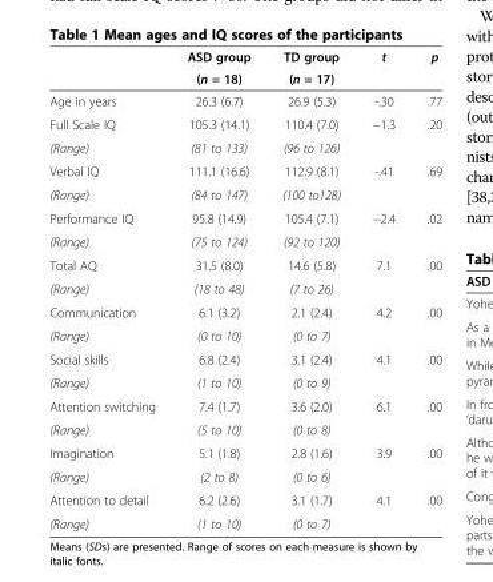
<table><thead><tr><td rowspan="2"></td><td rowspan="2">ASD group (n = 18)</td><td rowspan="2">TD group (n = 17)</td><td rowspan="2">t</td><td rowspan="2">p</td></tr><tr></tr></thead><tbody><tr><td>Age in years</td><td>26.3 (6.7)</td><td>26.9 (5.3)</td><td>-.30</td><td>.77</td></tr><tr><td>Full Scale IQ</td><td>105.3 (14.1)</td><td>110.4 (7.0)</td><td rowspan="2">−1.3</td><td rowspan="2">.20</td></tr><tr><td>(Range)</td><td>(81 to 133)</td><td>(96 to 126)</td></tr><tr><td>Verbal IQ</td><td>111.1 (16.6)</td><td>112.9 (8.1)</td><td rowspan="2">-.41</td><td rowspan="2">.69</td></tr><tr><td>(Range)</td><td>(84 to 147)</td><td>(100 to128)</td></tr><tr><td>Performance IQ</td><td>95.8 (14.9)</td><td>105.4 (7.1)</td><td rowspan="2">−2.4</td><td rowspan="2">.02</td></tr><tr><td>(Range)</td><td>(75 to 124)</td><td>(92 to 120)</td></tr><tr><td>Total AQ</td><td>31.5 (8.0)</td><td>14.6 (5.8)</td><td rowspan="2">7.1</td><td rowspan="2">.00</td></tr><tr><td>(Range)</td><td>(18 to 48)</td><td>(7 to 26)</td></tr><tr><td>Communication</td><td>6.1 (3.2)</td><td>2.1 (2.4)</td><td rowspan="2">4.2</td><td rowspan="2">.00</td></tr><tr><td>(Range)</td><td>(0 to 10)</td><td>(0 to 7)</td></tr><tr><td>Social skills</td><td>6.8 (2.4)</td><td>3.1 (2.4)</td><td rowspan="2">4.1</td><td rowspan="2">.00</td></tr><tr><td>(Range)</td><td>(1 to 10)</td><td>(0 to 9)</td></tr><tr><td>Attention switching</td><td>7.4 (1.7)</td><td>3.6 (2.0)</td><td rowspan="2">6.1</td><td rowspan="2">.00</td></tr><tr><td>(Range)</td><td>(5 to 10)</td><td>(0 to 8)</td></tr><tr><td>Imagination</td><td>5.1 (1.8)</td><td>2.8 (1.6)</td><td rowspan="2">3.9</td><td rowspan="2">.00</td></tr><tr><td>(Range)</td><td>(2 to 8)</td><td>(0 to 6)</td></tr><tr><td>Attention to detail</td><td>6.2 (2.6)</td><td>3.1 (1.7)</td><td>4.1</td><td>.00</td></tr><tr><td>(Range)</td><td>(1 to 10)</td><td>(0 to 7)</td><td></td><td></td></tr></tbody></table>